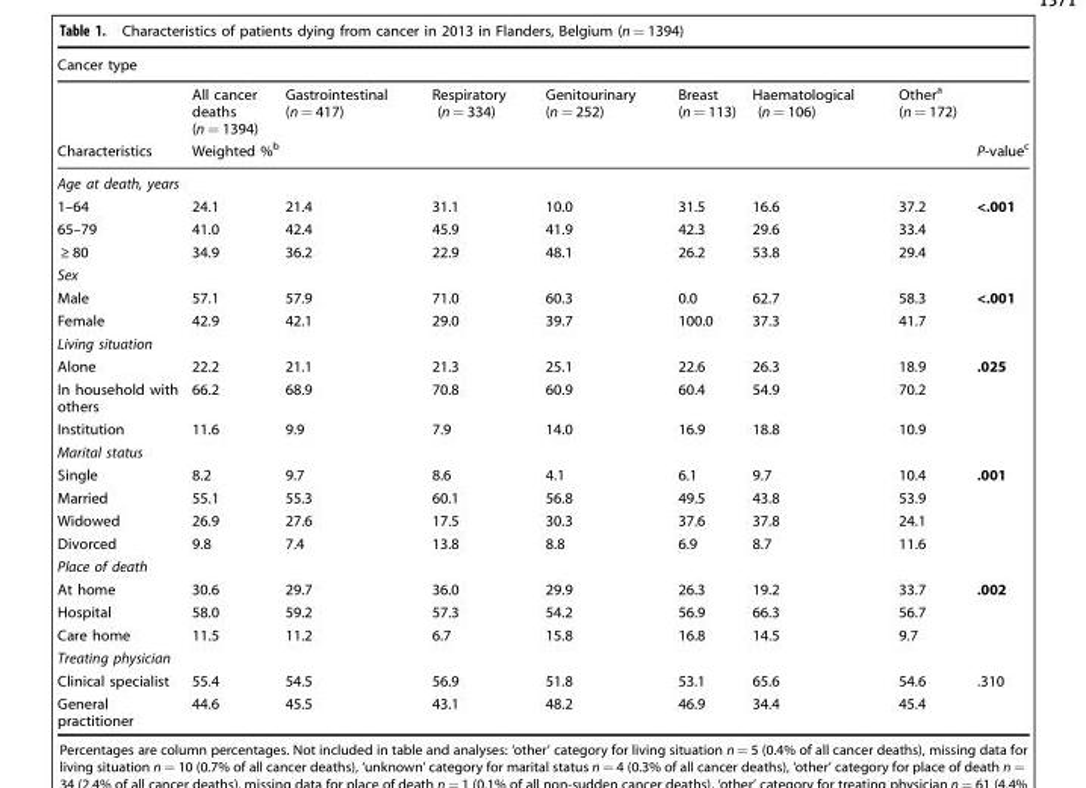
<table><thead><tr><td colspan="9">Cancer type</td></tr><tr><td rowspan="2">Characteristics</td><td>All cancer deaths (n = 1394)</td><td>Gastrointestinal (n = 417)</td><td>Respiratory (n = 334)</td><td>Genitourinary (n = 252)</td><td>Breast (n = 113)</td><td>Haematological (n = 106)</td><td>Other<sup>a</sup> (n = 172)</td><td rowspan="2">P-value<sup>c</sup></td></tr><tr><td colspan="7">Weighted %<sup>b</sup></td></tr></thead><tbody><tr><td colspan="9">Age at death, years</td></tr><tr><td>1–64</td><td>24.1</td><td>21.4</td><td>31.1</td><td>10.0</td><td>31.5</td><td>16.6</td><td>37.2</td><td>&lt;.001</td></tr><tr><td>65–79</td><td>41.0</td><td>42.4</td><td>45.9</td><td>41.9</td><td>42.3</td><td>29.6</td><td>33.4</td><td></td></tr><tr><td>≥ 80</td><td>34.9</td><td>36.2</td><td>22.9</td><td>48.1</td><td>26.2</td><td>53.8</td><td>29.4</td><td></td></tr><tr><td colspan="9">Sex</td></tr><tr><td>Male</td><td>57.1</td><td>57.9</td><td>71.0</td><td>60.3</td><td>0.0</td><td>62.7</td><td>58.3</td><td>&lt;.001</td></tr><tr><td>Female</td><td>42.9</td><td>42.1</td><td>29.0</td><td>39.7</td><td>100.0</td><td>37.3</td><td>41.7</td><td></td></tr><tr><td colspan="9">Living situation</td></tr><tr><td>Alone</td><td>22.2</td><td>21.1</td><td>21.3</td><td>25.1</td><td>22.6</td><td>26.3</td><td>18.9</td><td>.025</td></tr><tr><td>In household with others</td><td>66.2</td><td>68.9</td><td>70.8</td><td>60.9</td><td>60.4</td><td>54.9</td><td>70.2</td><td></td></tr><tr><td>Institution</td><td>11.6</td><td>9.9</td><td>7.9</td><td>14.0</td><td>16.9</td><td>18.8</td><td>10.9</td><td></td></tr><tr><td colspan="9">Marital status</td></tr><tr><td>Single</td><td>8.2</td><td>9.7</td><td>8.6</td><td>4.1</td><td>6.1</td><td>9.7</td><td>10.4</td><td>.001</td></tr><tr><td>Married</td><td>55.1</td><td>55.3</td><td>60.1</td><td>56.8</td><td>49.5</td><td>43.8</td><td>53.9</td><td></td></tr><tr><td>Widowed</td><td>26.9</td><td>27.6</td><td>17.5</td><td>30.3</td><td>37.6</td><td>37.8</td><td>24.1</td><td></td></tr><tr><td>Divorced</td><td>9.8</td><td>7.4</td><td>13.8</td><td>8.8</td><td>6.9</td><td>8.7</td><td>11.6</td><td></td></tr><tr><td colspan="9">Place of death</td></tr><tr><td>At home</td><td>30.6</td><td>29.7</td><td>36.0</td><td>29.9</td><td>26.3</td><td>19.2</td><td>33.7</td><td>.002</td></tr><tr><td>Hospital</td><td>58.0</td><td>59.2</td><td>57.3</td><td>54.2</td><td>56.9</td><td>66.3</td><td>56.7</td><td></td></tr><tr><td>Care home</td><td>11.5</td><td>11.2</td><td>6.7</td><td>15.8</td><td>16.8</td><td>14.5</td><td>9.7</td><td></td></tr><tr><td colspan="9">Treating physician</td></tr><tr><td>Clinical specialist</td><td>55.4</td><td>54.5</td><td>56.9</td><td>51.8</td><td>53.1</td><td>65.6</td><td>54.6</td><td>.310</td></tr><tr><td>General practitioner</td><td>44.6</td><td>45.5</td><td>43.1</td><td>48.2</td><td>46.9</td><td>34.4</td><td>45.4</td><td></td></tr></tbody></table>